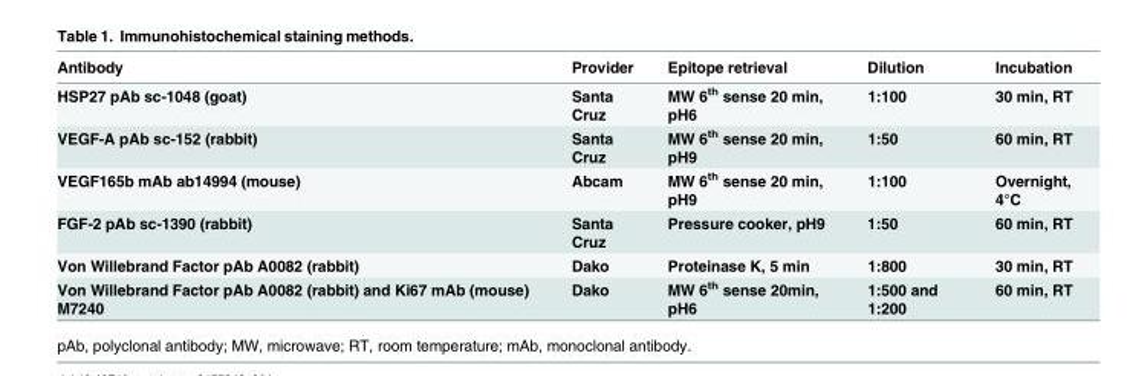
<table><thead><tr><td>Antibody</td><td>Provider</td><td>Epitope retrieval</td><td>Dilution</td><td>Incubation</td></tr></thead><tbody><tr><td>HSP27 pAb sc-1048 (goat)</td><td>Santa Cruz</td><td>MW 6<sup>th</sup> sense 20 min, pH6</td><td>1:100</td><td>30 min, RT</td></tr><tr><td>VEGF-A pAb sc-152 (rabbit)</td><td>Santa Cruz</td><td>MW 6<sup>th</sup> sense 20 min, pH9</td><td>1:50</td><td>60 min, RT</td></tr><tr><td>VEGF165b mAb ab14994 (mouse)</td><td>Abcam</td><td>MW 6<sup>th</sup> sense 20 min, pH9</td><td>1:100</td><td>Overnight, 4°C</td></tr><tr><td>FGF-2 pAb sc-1390 (rabbit)</td><td>Santa Cruz</td><td>Pressure cooker, pH9</td><td>1:50</td><td>60 min, RT</td></tr><tr><td>Von Willebrand Factor pAb A0082 (rabbit)</td><td>Dako</td><td>Proteinase K, 5 min</td><td>1:800</td><td>30 min, RT</td></tr><tr><td>Von Willebrand Factor pAb A0082 (rabbit) and Ki67 mAb (mouse) M7240</td><td>Dako</td><td>MW 6<sup>th</sup> sense 20min, pH6</td><td>1:500 and 1:200</td><td>60 min, RT</td></tr></tbody></table>